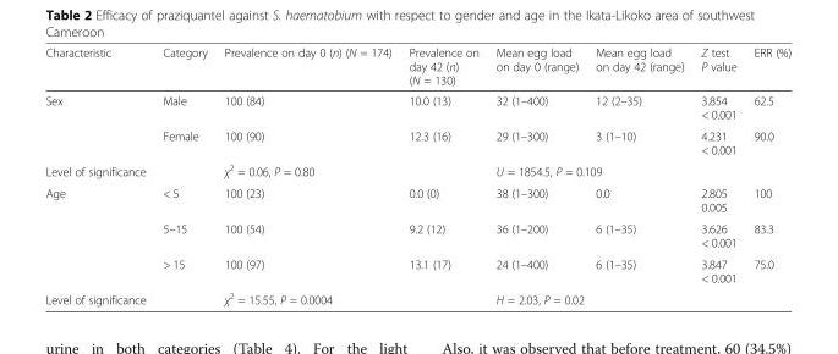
<table><thead><tr><td>Characteristic</td><td>Category</td><td>Prevalence on day 0 (n) (N = 174)</td><td>Prevalence on day 42 (n) (N = 130)</td><td>Mean egg load on day 0 (range)</td><td>Mean egg load on day 42 (range)</td><td>Z test P value</td><td>ERR (%)</td></tr></thead><tbody><tr><td rowspan="2">Sex</td><td>Male</td><td>100 (84)</td><td>10.0 (13)</td><td>32 (1–400)</td><td>12 (2–35)</td><td>3.854 &lt; 0.001</td><td>62.5</td></tr><tr><td>Female</td><td>100 (90)</td><td>12.3 (16)</td><td>29 (1–300)</td><td>3 (1–10)</td><td>4.231 &lt; 0.001</td><td>90.0</td></tr><tr><td>Level of significance</td><td></td><td colspan="2">χ<sup>2</sup> = 0.06, P = 0.80</td><td colspan="2">U = 1854.5, P = 0.109</td><td></td><td></td></tr><tr><td rowspan="3">Age</td><td>&lt; 5</td><td>100 (23)</td><td>0.0 (0)</td><td>38 (1–300)</td><td>0.0</td><td>2.805 0.005</td><td>100</td></tr><tr><td>5–15</td><td>100 (54)</td><td>9.2 (12)</td><td>36 (1–200)</td><td>6 (1–35)</td><td>3.626 &lt; 0.001</td><td>83.3</td></tr><tr><td>&gt; 15</td><td>100 (97)</td><td>13.1 (17)</td><td>24 (1–400)</td><td>6 (1–35)</td><td>3.847 &lt; 0.001</td><td>75.0</td></tr><tr><td>Level of significance</td><td></td><td colspan="2">χ<sup>2</sup> = 15.55, P = 0.0004</td><td colspan="2">H = 2.03, P = 0.02</td><td></td><td></td></tr></tbody></table>